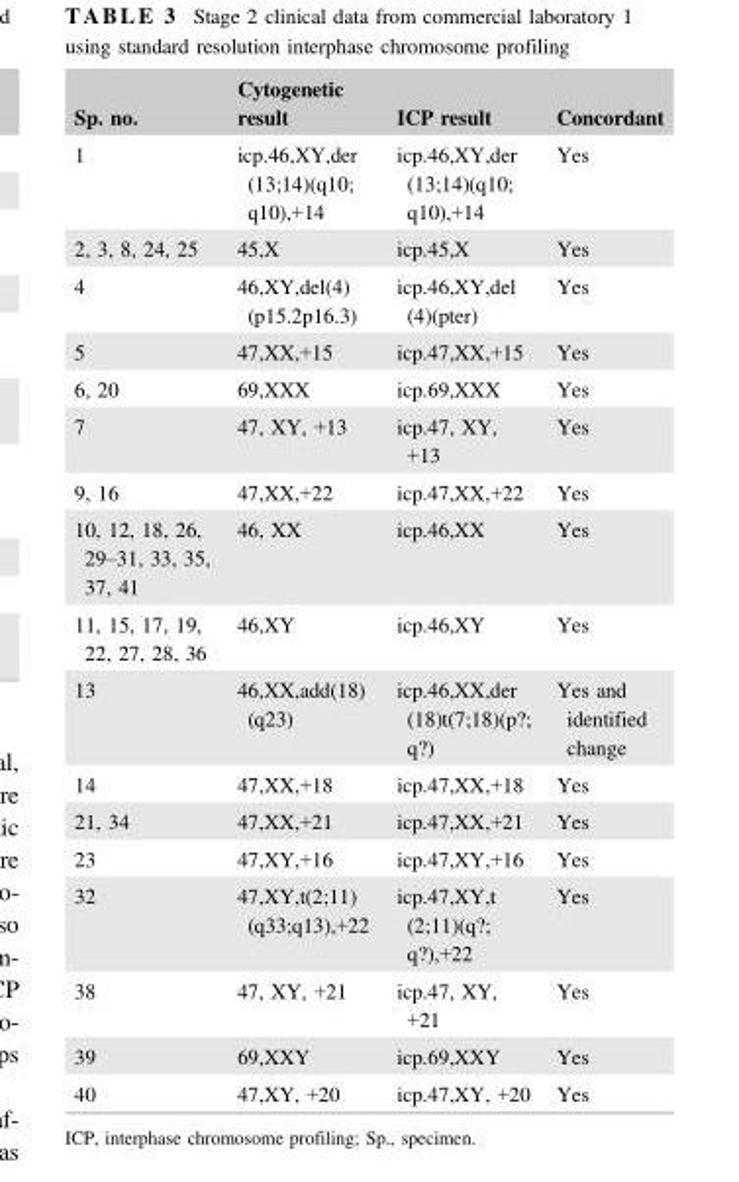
<table><thead><tr><td>Sp. no.</td><td>Cytogenetic result</td><td>ICP result</td><td>Concordant</td></tr></thead><tbody><tr><td>1</td><td>icp.46,XY,der (13;14)(q10; q10),+14</td><td>icp.46,XY,der (13;14)(q10; q10),+14</td><td>Yes</td></tr><tr><td>2, 3, 8, 24, 25</td><td>45,X</td><td>icp.45,X</td><td>Yes</td></tr><tr><td>4</td><td>46,XY,del(4) (p15.2p16.3)</td><td>icp.46,XY,del (4)(pter)</td><td>Yes</td></tr><tr><td>5</td><td>47,XX,+15</td><td>icp.47,XX,+15</td><td>Yes</td></tr><tr><td>6, 20</td><td>69,XXX</td><td>icp.69,XXX</td><td>Yes</td></tr><tr><td>7</td><td>47, XY, +13</td><td>icp.47, XY, +13</td><td>Yes</td></tr><tr><td>9, 16</td><td>47,XX,+22</td><td>icp.47,XX,+22</td><td>Yes</td></tr><tr><td>10, 12, 18, 26, 29–31, 33, 35, 37, 41</td><td>46, XX</td><td>icp.46,XX</td><td>Yes</td></tr><tr><td>11, 15, 17, 19, 22, 27, 28, 36</td><td>46,XY</td><td>icp.46,XY</td><td>Yes</td></tr><tr><td>13</td><td>46,XX,add(18) (q23)</td><td>icp.46,XX,der (18)t(7;18)(p?; q?)</td><td>Yes and identified change</td></tr><tr><td>14</td><td>47,XX,+18</td><td>icp.47,XX,+18</td><td>Yes</td></tr><tr><td>21, 34</td><td>47,XX,+21</td><td>icp.47,XX,+21</td><td>Yes</td></tr><tr><td>23</td><td>47,XY,+16</td><td>icp.47,XY,+16</td><td>Yes</td></tr><tr><td>32</td><td>47,XY,t(2;11) (q33;q13),+22</td><td>icp.47,XY,t (2;11)(q?; q?),+22</td><td>Yes</td></tr><tr><td>38</td><td>47, XY, +21</td><td>icp.47, XY, +21</td><td>Yes</td></tr><tr><td>39</td><td>69,XXY</td><td>icp.69,XXY</td><td>Yes</td></tr><tr><td>40</td><td>47,XY, +20</td><td>icp.47,XY, +20</td><td>Yes</td></tr></tbody></table>